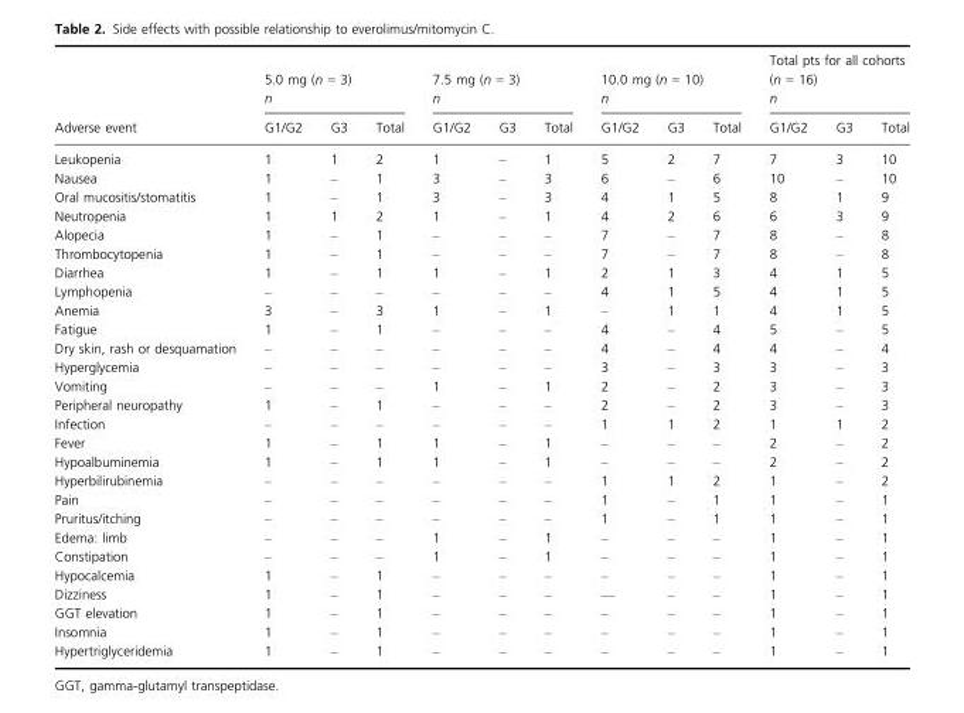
<table><thead><tr><td rowspan="2">Adverse event</td><td colspan="3">5.0 mg (n = 3) n</td><td colspan="3">7.5 mg (n = 3) n</td><td colspan="3">10.0 mg (n = 10) n</td><td colspan="3">Total pts for all cohorts (n = 16) n</td></tr><tr><td>G1/G2</td><td>G3</td><td>Total</td><td>G1/G2</td><td>G3</td><td>Total</td><td>G1/G2</td><td>G3</td><td>Total</td><td>G1/G2</td><td>G3</td><td>Total</td></tr></thead><tbody><tr><td>Leukopenia</td><td>1</td><td>1</td><td>2</td><td>1</td><td>–</td><td>1</td><td>5</td><td>2</td><td>7</td><td>7</td><td>3</td><td>10</td></tr><tr><td>Nausea</td><td>1</td><td>–</td><td>1</td><td>3</td><td>–</td><td>3</td><td>6</td><td>–</td><td>6</td><td>10</td><td>–</td><td>10</td></tr><tr><td>Oral mucositis/stomatitis</td><td>1</td><td>–</td><td>1</td><td>3</td><td>–</td><td>3</td><td>4</td><td>1</td><td>5</td><td>8</td><td>1</td><td>9</td></tr><tr><td>Neutropenia</td><td>1</td><td>1</td><td>2</td><td>1</td><td>–</td><td>1</td><td>4</td><td>2</td><td>6</td><td>6</td><td>3</td><td>9</td></tr><tr><td>Alopecia</td><td>1</td><td>–</td><td>1</td><td>–</td><td>–</td><td>–</td><td>7</td><td>–</td><td>7</td><td>8</td><td>–</td><td>8</td></tr><tr><td>Thrombocytopenia</td><td>1</td><td>–</td><td>1</td><td>–</td><td>–</td><td>–</td><td>7</td><td>–</td><td>7</td><td>8</td><td>–</td><td>8</td></tr><tr><td>Diarrhea</td><td>1</td><td>–</td><td>1</td><td>1</td><td>–</td><td>1</td><td>2</td><td>1</td><td>3</td><td>4</td><td>1</td><td>5</td></tr><tr><td>Lymphopenia</td><td>–</td><td>–</td><td>–</td><td>–</td><td>–</td><td>–</td><td>4</td><td>1</td><td>5</td><td>4</td><td>1</td><td>5</td></tr><tr><td>Anemia</td><td>3</td><td>–</td><td>3</td><td>1</td><td>–</td><td>1</td><td>–</td><td>1</td><td>1</td><td>4</td><td>1</td><td>5</td></tr><tr><td>Fatigue</td><td>1</td><td>–</td><td>1</td><td>–</td><td>–</td><td>–</td><td>4</td><td>–</td><td>4</td><td>5</td><td>–</td><td>5</td></tr><tr><td>Dry skin, rash or desquamation</td><td>–</td><td>–</td><td>–</td><td>–</td><td>–</td><td>–</td><td>4</td><td>–</td><td>4</td><td>4</td><td>–</td><td>4</td></tr><tr><td>Hyperglycemia</td><td>–</td><td>–</td><td>–</td><td>–</td><td>–</td><td>–</td><td>3</td><td>–</td><td>3</td><td>3</td><td>–</td><td>3</td></tr><tr><td>Vomiting</td><td>–</td><td>–</td><td>–</td><td>1</td><td>–</td><td>1</td><td>2</td><td>–</td><td>2</td><td>3</td><td>–</td><td>3</td></tr><tr><td>Peripheral neuropathy</td><td>1</td><td>–</td><td>1</td><td>–</td><td>–</td><td>–</td><td>2</td><td>–</td><td>2</td><td>3</td><td>–</td><td>3</td></tr><tr><td>Infection</td><td>–</td><td>–</td><td>–</td><td>–</td><td>–</td><td>–</td><td>1</td><td>1</td><td>2</td><td>1</td><td>1</td><td>2</td></tr><tr><td>Fever</td><td>1</td><td>–</td><td>1</td><td>1</td><td>–</td><td>1</td><td>–</td><td>–</td><td>–</td><td>2</td><td>–</td><td>2</td></tr><tr><td>Hypoalbuminemia</td><td>1</td><td>–</td><td>1</td><td>1</td><td>–</td><td>1</td><td>–</td><td>–</td><td>–</td><td>2</td><td>–</td><td>2</td></tr><tr><td>Hyperbilirubinemia</td><td>–</td><td>–</td><td>–</td><td>–</td><td>–</td><td>–</td><td>1</td><td>1</td><td>2</td><td>1</td><td>–</td><td>2</td></tr><tr><td>Pain</td><td>–</td><td>–</td><td>–</td><td>–</td><td>–</td><td>–</td><td>1</td><td>–</td><td>1</td><td>1</td><td>–</td><td>1</td></tr><tr><td>Pruritus/itching</td><td>–</td><td>–</td><td>–</td><td>–</td><td>–</td><td>–</td><td>1</td><td>–</td><td>1</td><td>1</td><td>–</td><td>1</td></tr><tr><td>Edema: limb</td><td>–</td><td>–</td><td>–</td><td>1</td><td>–</td><td>1</td><td>–</td><td>–</td><td>–</td><td>1</td><td>–</td><td>1</td></tr><tr><td>Constipation</td><td>–</td><td>–</td><td>–</td><td>1</td><td>–</td><td>1</td><td>–</td><td>–</td><td>–</td><td>1</td><td>–</td><td>1</td></tr><tr><td>Hypocalcemia</td><td>1</td><td>–</td><td>1</td><td>–</td><td>–</td><td>–</td><td>–</td><td>–</td><td>–</td><td>1</td><td>–</td><td>1</td></tr><tr><td>Dizziness</td><td>1</td><td>–</td><td>1</td><td>–</td><td>–</td><td>–</td><td>––</td><td>–</td><td>–</td><td>1</td><td>–</td><td>1</td></tr><tr><td>GGT elevation</td><td>1</td><td>–</td><td>1</td><td>–</td><td>–</td><td>–</td><td>–</td><td>–</td><td>–</td><td>1</td><td>–</td><td>1</td></tr><tr><td>Insomnia</td><td>1</td><td>–</td><td>1</td><td>–</td><td>–</td><td>–</td><td>–</td><td>–</td><td>–</td><td>1</td><td>–</td><td>1</td></tr><tr><td>Hypertriglyceridemia</td><td>1</td><td>–</td><td>1</td><td>–</td><td>–</td><td>–</td><td>–</td><td>–</td><td>–</td><td>1</td><td>–</td><td>1</td></tr></tbody></table>